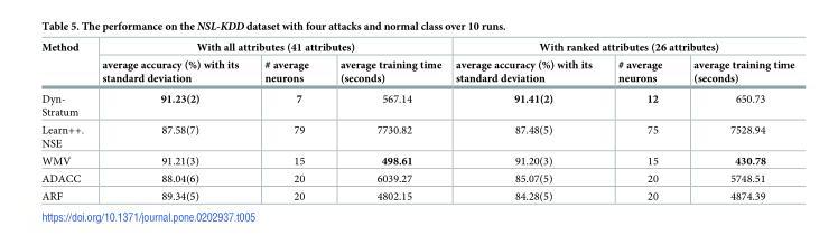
<table><thead><tr><td rowspan="2">Method</td><td colspan="3">With all attributes (41 attributes)</td><td colspan="3">With ranked attributes (26 attributes)</td></tr><tr><td>average accuracy (%) with its standard deviation</td><td># average neurons</td><td>average training time (seconds)</td><td>average accuracy (%) with its standard deviation</td><td># average neurons</td><td>average training time (seconds)</td></tr></thead><tbody><tr><td>Dyn- Stratum</td><td>91.23(2)</td><td>7</td><td>567.14</td><td>91.41(2)</td><td>12</td><td>650.73</td></tr><tr><td>Learn++. NSE</td><td>87.58(7)</td><td>79</td><td>7730.82</td><td>87.48(5)</td><td>75</td><td>7528.94</td></tr><tr><td>WMV</td><td>91.21(3)</td><td>15</td><td>498.61</td><td>91.20(3)</td><td>15</td><td>430.78</td></tr><tr><td>ADACC</td><td>88.04(6)</td><td>20</td><td>6039.27</td><td>85.07(5)</td><td>20</td><td>5748.51</td></tr><tr><td>ARF</td><td>89.34(5)</td><td>20</td><td>4802.15</td><td>84.28(5)</td><td>20</td><td>4874.39</td></tr></tbody></table>